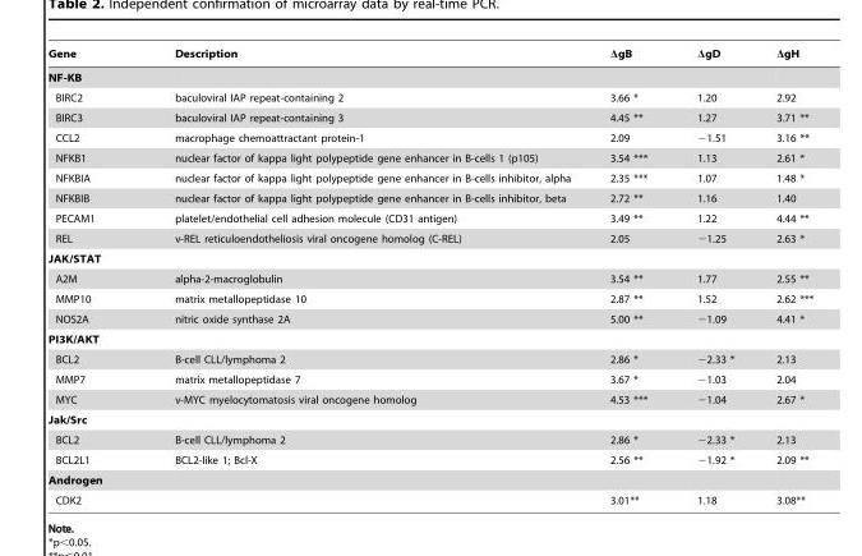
<table><thead><tr><td>Gene</td><td>Description</td><td>ΔgB</td><td>ΔgD</td><td>ΔgH</td></tr></thead><tbody><tr><td colspan="5">NF-KB</td></tr><tr><td>BIRC2</td><td>baculoviral IAP repeat-containing 2</td><td>3.66 *</td><td>1.20</td><td>2.92</td></tr><tr><td>BIRC3</td><td>baculoviral IAP repeat-containing 3</td><td>4.45 **</td><td>1.27</td><td>3.71 **</td></tr><tr><td>CCL2</td><td>macrophage chemoattractant protein-1</td><td>2.09</td><td>−1.51</td><td>3.16 **</td></tr><tr><td>NFKB1</td><td>nuclear factor of kappa light polypeptide gene enhancer in B-cells 1 (p105)</td><td>3.54 ***</td><td>1.13</td><td>2.61 *</td></tr><tr><td>NFKBIA</td><td>nuclear factor of kappa light polypeptide gene enhancer in B-cells inhibitor, alpha</td><td>2.35 ***</td><td>1.07</td><td>1.48 *</td></tr><tr><td>NFKBIB</td><td>nuclear factor of kappa light polypeptide gene enhancer in B-cells inhibitor, beta</td><td>2.72 **</td><td>1.16</td><td>1.40</td></tr><tr><td>PECAM1</td><td>platelet/endothelial cell adhesion molecule (CD31 antigen)</td><td>3.49 **</td><td>1.22</td><td>4.44 **</td></tr><tr><td>REL</td><td>v-REL reticuloendotheliosis viral oncogene homolog (C-REL)</td><td>2.05</td><td>−1.25</td><td>2.63 *</td></tr><tr><td colspan="5">JAK/STAT</td></tr><tr><td>A2M</td><td>alpha-2-macroglobulin</td><td>3.54 **</td><td>1.77</td><td>2.55 **</td></tr><tr><td>MMP10</td><td>matrix metallopeptidase 10</td><td>2.87 **</td><td>1.52</td><td>2.62 ***</td></tr><tr><td>NOS2A</td><td>nitric oxide synthase 2A</td><td>5.00 **</td><td>−1.09</td><td>4.41 *</td></tr><tr><td colspan="5">PI3K/AKT</td></tr><tr><td>BCL2</td><td>B-cell CLL/lymphoma 2</td><td>2.86 *</td><td>−2.33 *</td><td>2.13</td></tr><tr><td>MMP7</td><td>matrix metallopeptidase 7</td><td>3.67 *</td><td>−1.03</td><td>2.04</td></tr><tr><td>MYC</td><td>v-MYC myelocytomatosis viral oncogene homolog</td><td>4.53 ***</td><td>−1.04</td><td>2.67 *</td></tr><tr><td colspan="5">Jak/Src</td></tr><tr><td>BCL2</td><td>B-cell CLL/lymphoma 2</td><td>2.86 *</td><td>−2.33 *</td><td>2.13</td></tr><tr><td>BCL2L1</td><td>BCL2-like 1; Bcl-X</td><td>2.56 **</td><td>−1.92 *</td><td>2.09 **</td></tr><tr><td colspan="5">Androgen</td></tr><tr><td>CDK2</td><td></td><td>3.01**</td><td>1.18</td><td>3.08**</td></tr></tbody></table>